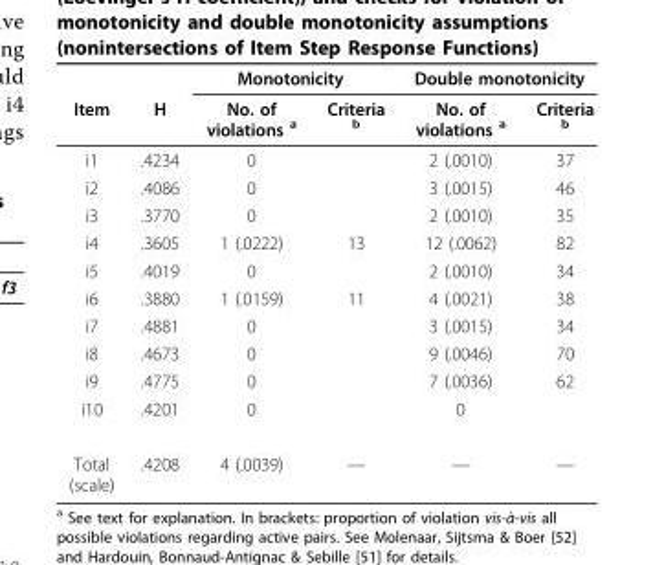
<table><thead><tr><td rowspan="2">Item</td><td rowspan="2">H</td><td colspan="2">Monotonicity</td><td colspan="2">Double monotonicity</td></tr><tr><td>No. of violations <sup>a</sup></td><td>Criteria <sup>b</sup></td><td>No. of violations <sup>a</sup></td><td>Criteria <sup>b</sup></td></tr></thead><tbody><tr><td>i1</td><td>.4234</td><td>0</td><td></td><td>2 (.0010)</td><td>37</td></tr><tr><td>i2</td><td>.4086</td><td>0</td><td></td><td>3 (.0015)</td><td>46</td></tr><tr><td>i3</td><td>.3770</td><td>0</td><td></td><td>2 (.0010)</td><td>35</td></tr><tr><td>i4</td><td>.3605</td><td>1 (.0222)</td><td>13</td><td>12 (.0062)</td><td>82</td></tr><tr><td>i5</td><td>.4019</td><td>0</td><td></td><td>2 (.0010)</td><td>34</td></tr><tr><td>i6</td><td>.3880</td><td>1 (.0159)</td><td>11</td><td>4 (.0021)</td><td>38</td></tr><tr><td>i7</td><td>.4881</td><td>0</td><td></td><td>3 (.0015)</td><td>34</td></tr><tr><td>i8</td><td>.4673</td><td>0</td><td></td><td>9 (.0046)</td><td>70</td></tr><tr><td>i9</td><td>.4775</td><td>0</td><td></td><td>7 (.0036)</td><td>62</td></tr><tr><td>i10</td><td>.4201</td><td>0</td><td></td><td>0</td><td></td></tr><tr><td>Total (scale)</td><td>.4208</td><td>4 (.0039)</td><td>—</td><td>—</td><td>—</td></tr></tbody></table>